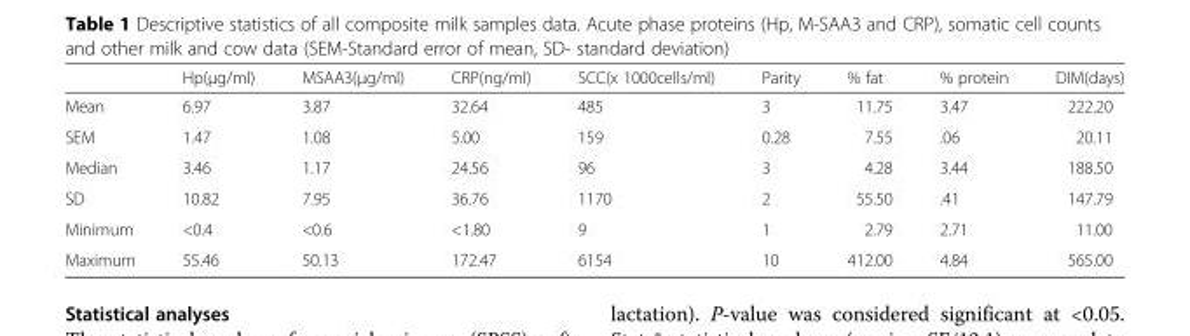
<table><thead><tr><td></td><td>Hp(μg/ml)</td><td>MSAA3(μg/ml)</td><td>CRP(ng/ml)</td><td>SCC(x 1000cells/ml)</td><td>Parity</td><td>% fat</td><td>% protein</td><td>DIM(days)</td></tr></thead><tbody><tr><td>Mean</td><td>6.97</td><td>3.87</td><td>32.64</td><td>485</td><td>3</td><td>11.75</td><td>3.47</td><td>222.20</td></tr><tr><td>SEM</td><td>1.47</td><td>1.08</td><td>5.00</td><td>159</td><td>0.28</td><td>7.55</td><td>.06</td><td>20.11</td></tr><tr><td>Median</td><td>3.46</td><td>1.17</td><td>24.56</td><td>96</td><td>3</td><td>4.28</td><td>3.44</td><td>188.50</td></tr><tr><td>SD</td><td>10.82</td><td>7.95</td><td>36.76</td><td>1170</td><td>2</td><td>55.50</td><td>.41</td><td>147.79</td></tr><tr><td>Minimum</td><td>&lt;0.4</td><td>&lt;0.6</td><td>&lt;1.80</td><td>9</td><td>1</td><td>2.79</td><td>2.71</td><td>11.00</td></tr><tr><td>Maximum</td><td>55.46</td><td>50.13</td><td>172.47</td><td>6154</td><td>10</td><td>412.00</td><td>4.84</td><td>565.00</td></tr></tbody></table>